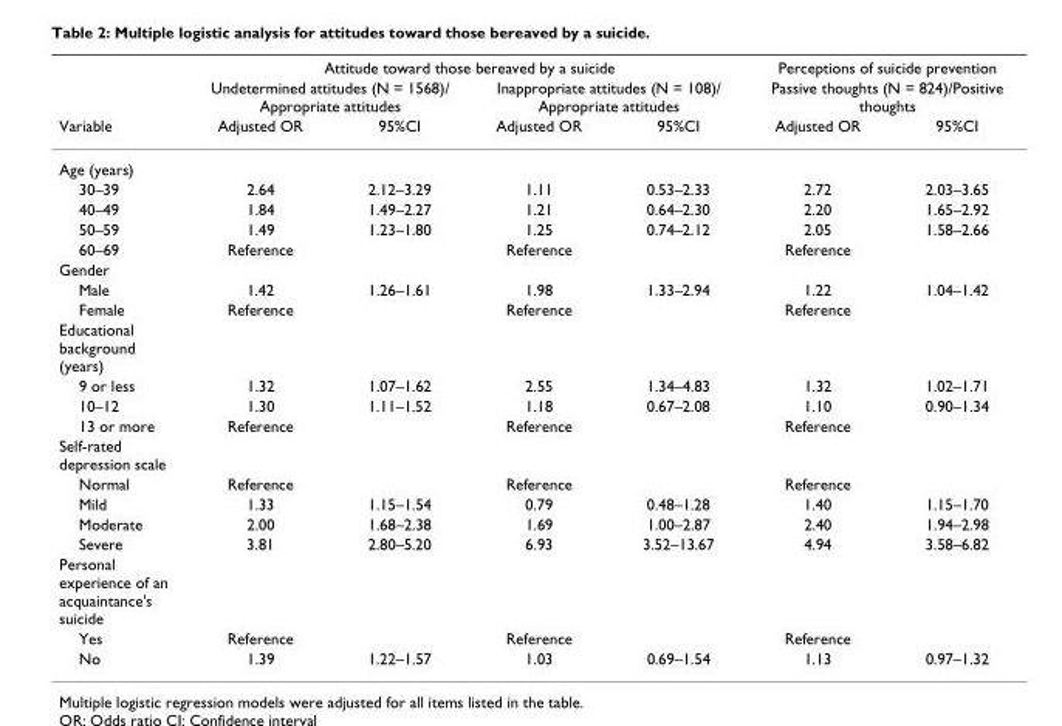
<table><thead><tr><td rowspan="3">Variable</td><td colspan="4">Attitude toward those bereaved by a suicide</td><td rowspan="2" colspan="2">Perceptions of suicide prevention Passive thoughts (N = 824)/Positive thoughts</td></tr><tr><td colspan="2">Undetermined attitudes (N = 1568)/ Appropriate attitudes</td><td colspan="2">Inappropriate attitudes (N = 108)/ Appropriate attitudes</td></tr><tr><td>Adjusted OR</td><td>95%CI</td><td>Adjusted OR</td><td>95%CI</td><td>Adjusted OR</td><td>95%CI</td></tr></thead><tbody><tr><td colspan="7">Age (years)</td></tr><tr><td>30–39</td><td>2.64</td><td>2.12–3.29</td><td>1.11</td><td>0.53–2.33</td><td>2.72</td><td>2.03–3.65</td></tr><tr><td>40–49</td><td>1.84</td><td>1.49–2.27</td><td>1.21</td><td>0.64–2.30</td><td>2.20</td><td>1.65–2.92</td></tr><tr><td>50–59</td><td>1.49</td><td>1.23–1.80</td><td>1.25</td><td>0.74–2.12</td><td>2.05</td><td>1.58–2.66</td></tr><tr><td>60–69</td><td>Reference</td><td></td><td>Reference</td><td></td><td>Reference</td><td></td></tr><tr><td colspan="7">Gender</td></tr><tr><td>Male</td><td>1.42</td><td>1.26–1.61</td><td>1.98</td><td>1.33–2.94</td><td>1.22</td><td>1.04–1.42</td></tr><tr><td>Female</td><td>Reference</td><td></td><td>Reference</td><td></td><td>Reference</td><td></td></tr><tr><td colspan="7">Educational background (years)</td></tr><tr><td>9 or less</td><td>1.32</td><td>1.07–1.62</td><td>2.55</td><td>1.34–4.83</td><td>1.32</td><td>1.02–1.71</td></tr><tr><td>10–12</td><td>1.30</td><td>1.11–1.52</td><td>1.18</td><td>0.67–2.08</td><td>1.10</td><td>0.90–1.34</td></tr><tr><td>13 or more</td><td>Reference</td><td></td><td>Reference</td><td></td><td>Reference</td><td></td></tr><tr><td colspan="7">Self-rated depression scale</td></tr><tr><td>Normal</td><td>Reference</td><td></td><td>Reference</td><td></td><td>Reference</td><td></td></tr><tr><td>Mild</td><td>1.33</td><td>1.15–1.54</td><td>0.79</td><td>0.48–1.28</td><td>1.40</td><td>1.15–1.70</td></tr><tr><td>Moderate</td><td>2.00</td><td>1.68–2.38</td><td>1.69</td><td>1.00–2.87</td><td>2.40</td><td>1.94–2.98</td></tr><tr><td>Severe</td><td>3.81</td><td>2.80–5.20</td><td>6.93</td><td>3.52–13.67</td><td>4.94</td><td>3.58–6.82</td></tr><tr><td colspan="7">Personal experience of an acquaintance&#x27;s suicide</td></tr><tr><td>Yes</td><td>Reference</td><td></td><td>Reference</td><td></td><td>Reference</td><td></td></tr><tr><td>No</td><td>1.39</td><td>1.22–1.57</td><td>1.03</td><td>0.69–1.54</td><td>1.13</td><td>0.97–1.32</td></tr></tbody></table>